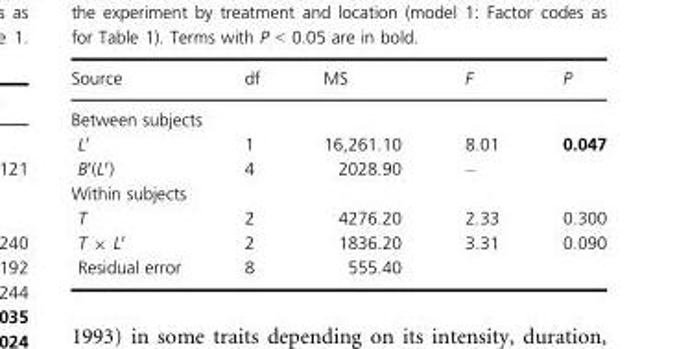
<table><thead><tr><td>Source</td><td>df</td><td>MS</td><td>F</td><td>P</td></tr></thead><tbody><tr><td colspan="5">Between subjects</td></tr><tr><td>L′</td><td>1</td><td>16,261.10</td><td>8.01</td><td>0.047</td></tr><tr><td>B′(L′)</td><td>4</td><td>2028.90</td><td>–</td><td></td></tr><tr><td colspan="5">Within subjects</td></tr><tr><td>T</td><td>2</td><td>4276.20</td><td>2.33</td><td>0.300</td></tr><tr><td>T × L′</td><td>2</td><td>1836.20</td><td>3.31</td><td>0.090</td></tr><tr><td>Residual error</td><td>8</td><td>555.40</td><td></td><td></td></tr></tbody></table>